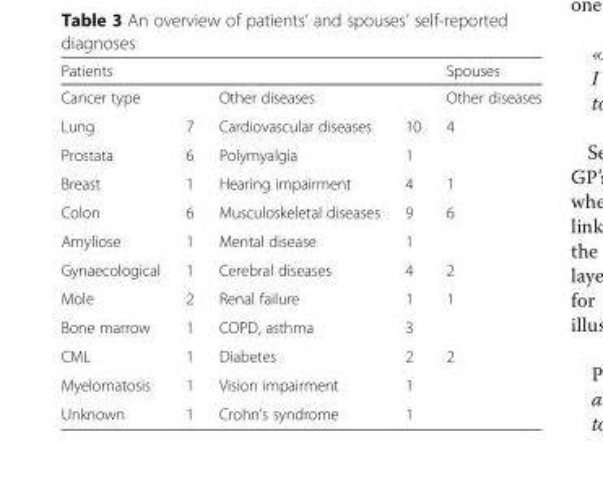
<table><thead><tr><td colspan="4">Patients</td><td rowspan="3">Spouses Other diseases 4</td></tr><tr><td colspan="2">Cancer type</td><td colspan="2">Other diseases</td></tr><tr><td>Lung</td><td>7</td><td>Cardiovascular diseases</td><td>10</td></tr></thead><tbody><tr><td>Prostata</td><td>6</td><td>Polymyalgia</td><td>1</td><td></td></tr><tr><td>Breast</td><td>1</td><td>Hearing impairment</td><td>4</td><td>1</td></tr><tr><td>Colon</td><td>6</td><td>Musculoskeletal diseases</td><td>9</td><td>6</td></tr><tr><td>Amyliose</td><td>1</td><td>Mental disease</td><td>1</td><td></td></tr><tr><td>Gynaecological</td><td>1</td><td>Cerebral diseases</td><td>4</td><td>2</td></tr><tr><td>Mole</td><td>2</td><td>Renal failure</td><td>1</td><td>1</td></tr><tr><td>Bone marrow</td><td>1</td><td>COPD, asthma</td><td>3</td><td></td></tr><tr><td>CML</td><td>1</td><td>Diabetes</td><td>2</td><td>2</td></tr><tr><td>Myelomatosis</td><td>1</td><td>Vision impairment</td><td>1</td><td></td></tr><tr><td>Unknown</td><td>1</td><td>Crohn’s syndrome</td><td>1</td><td></td></tr></tbody></table>